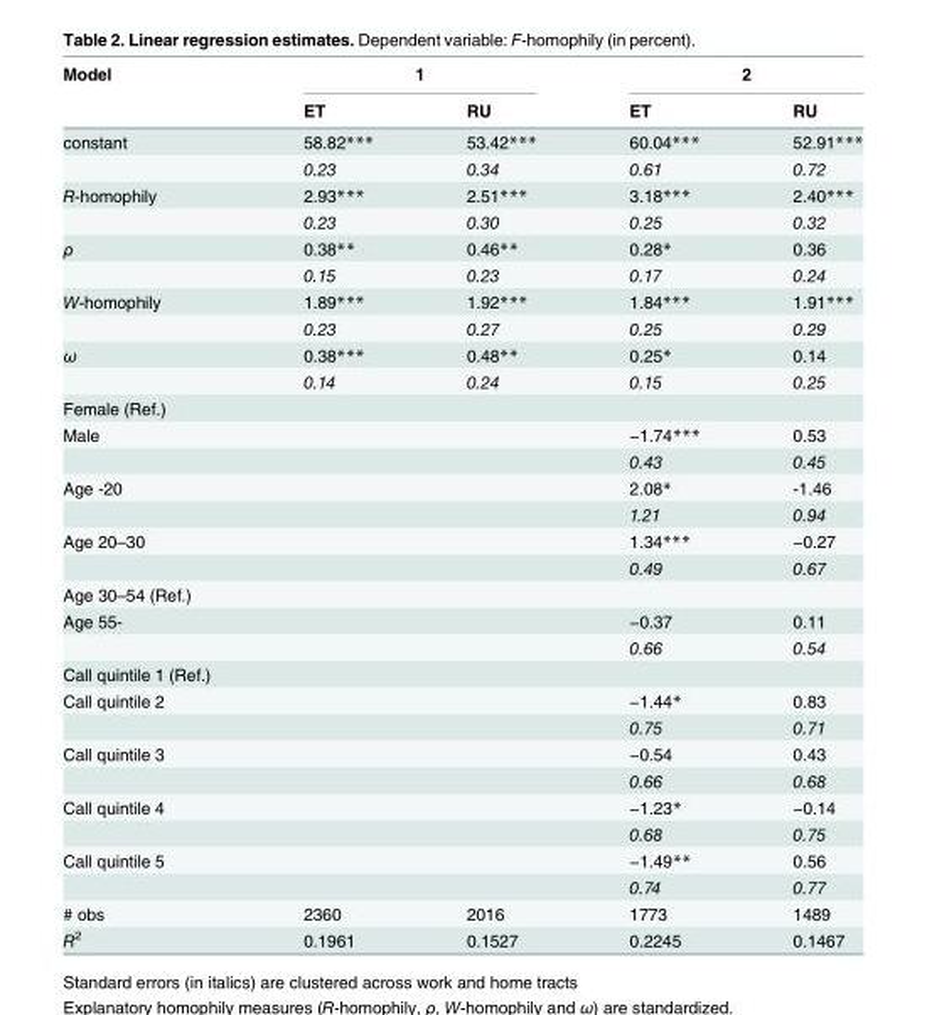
<table><thead><tr><td rowspan="2">Model</td><td colspan="2">1</td><td colspan="2">2</td></tr><tr><td>ET</td><td>RU</td><td>ET</td><td>RU</td></tr></thead><tbody><tr><td rowspan="2">constant</td><td>58.82***</td><td>53.42***</td><td>60.04***</td><td>52.91***</td></tr><tr><td>0.23</td><td>0.34</td><td>0.61</td><td>0.72</td></tr><tr><td rowspan="2">R-homophily</td><td>2.93***</td><td>2.51***</td><td>3.18***</td><td>2.40***</td></tr><tr><td>0.23</td><td>0.30</td><td>0.25</td><td>0.32</td></tr><tr><td rowspan="2">ρ</td><td>0.38**</td><td>0.46**</td><td>0.28*</td><td>0.36</td></tr><tr><td>0.15</td><td>0.23</td><td>0.17</td><td>0.24</td></tr><tr><td rowspan="2">W-homophily</td><td>1.89***</td><td>1.92***</td><td>1.84***</td><td>1.91***</td></tr><tr><td>0.23</td><td>0.27</td><td>0.25</td><td>0.29</td></tr><tr><td rowspan="2">ω</td><td>0.38***</td><td>0.48**</td><td>0.25*</td><td>0.14</td></tr><tr><td>0.14</td><td>0.24</td><td>0.15</td><td>0.25</td></tr><tr><td colspan="5">Female (Ref.)</td></tr><tr><td rowspan="2">Male</td><td></td><td></td><td>−1.74***</td><td>0.53</td></tr><tr><td></td><td></td><td>0.43</td><td>0.45</td></tr><tr><td rowspan="2">Age -20</td><td></td><td></td><td>2.08*</td><td>-1.46</td></tr><tr><td></td><td></td><td>1.21</td><td>0.94</td></tr><tr><td rowspan="2">Age 20–30</td><td></td><td></td><td>1.34***</td><td>−0.27</td></tr><tr><td></td><td></td><td>0.49</td><td>0.67</td></tr><tr><td colspan="5">Age 30–54 (Ref.)</td></tr><tr><td rowspan="2">Age 55-</td><td></td><td></td><td>−0.37</td><td>0.11</td></tr><tr><td></td><td></td><td>0.66</td><td>0.54</td></tr><tr><td colspan="5">Call quintile 1 (Ref.)</td></tr><tr><td rowspan="2">Call quintile 2</td><td></td><td></td><td>−1.44*</td><td>0.83</td></tr><tr><td></td><td></td><td>0.75</td><td>0.71</td></tr><tr><td rowspan="2">Call quintile 3</td><td></td><td></td><td>−0.54</td><td>0.43</td></tr><tr><td></td><td></td><td>0.66</td><td>0.68</td></tr><tr><td rowspan="2">Call quintile 4</td><td></td><td></td><td>−1.23*</td><td>−0.14</td></tr><tr><td></td><td></td><td>0.68</td><td>0.75</td></tr><tr><td rowspan="2">Call quintile 5</td><td></td><td></td><td>−1.49**</td><td>0.56</td></tr><tr><td></td><td></td><td>0.74</td><td>0.77</td></tr><tr><td># obs</td><td>2360</td><td>2016</td><td>1773</td><td>1489</td></tr><tr><td>R<sup>2</sup></td><td>0.1961</td><td>0.1527</td><td>0.2245</td><td>0.1467</td></tr></tbody></table>